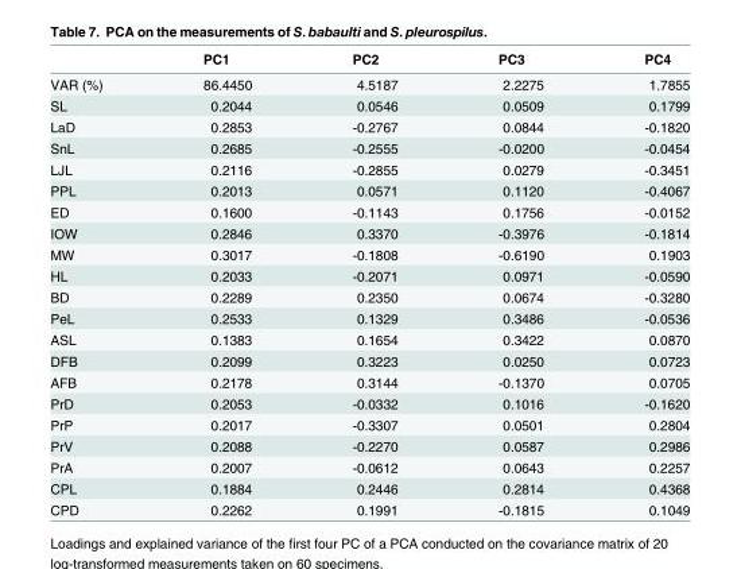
<table><thead><tr><td></td><td>PC1</td><td>PC2</td><td>PC3</td><td>PC4</td></tr></thead><tbody><tr><td>VAR (%)</td><td>86.4450</td><td>4.5187</td><td>2.2275</td><td>1.7855</td></tr><tr><td>SL</td><td>0.2044</td><td>0.0546</td><td>0.0509</td><td>0.1799</td></tr><tr><td>LaD</td><td>0.2853</td><td>-0.2767</td><td>0.0844</td><td>-0.1820</td></tr><tr><td>SnL</td><td>0.2685</td><td>-0.2555</td><td>-0.0200</td><td>-0.0454</td></tr><tr><td>LJL</td><td>0.2116</td><td>-0.2855</td><td>0.0279</td><td>-0.3451</td></tr><tr><td>PPL</td><td>0.2013</td><td>0.0571</td><td>0.1120</td><td>-0.4067</td></tr><tr><td>ED</td><td>0.1600</td><td>-0.1143</td><td>0.1756</td><td>-0.0152</td></tr><tr><td>IOW</td><td>0.2846</td><td>0.3370</td><td>-0.3976</td><td>-0.1814</td></tr><tr><td>MW</td><td>0.3017</td><td>-0.1808</td><td>-0.6190</td><td>0.1903</td></tr><tr><td>HL</td><td>0.2033</td><td>-0.2071</td><td>0.0971</td><td>-0.0590</td></tr><tr><td>BD</td><td>0.2289</td><td>0.2350</td><td>0.0674</td><td>-0.3280</td></tr><tr><td>PeL</td><td>0.2533</td><td>0.1329</td><td>0.3486</td><td>-0.0536</td></tr><tr><td>ASL</td><td>0.1383</td><td>0.1654</td><td>0.3422</td><td>0.0870</td></tr><tr><td>DFB</td><td>0.2099</td><td>0.3223</td><td>0.0250</td><td>0.0723</td></tr><tr><td>AFB</td><td>0.2178</td><td>0.3144</td><td>-0.1370</td><td>0.0705</td></tr><tr><td>PrD</td><td>0.2053</td><td>-0.0332</td><td>0.1016</td><td>-0.1620</td></tr><tr><td>PrP</td><td>0.2017</td><td>-0.3307</td><td>0.0501</td><td>0.2804</td></tr><tr><td>PrV</td><td>0.2088</td><td>-0.2270</td><td>0.0587</td><td>0.2986</td></tr><tr><td>PrA</td><td>0.2007</td><td>-0.0612</td><td>0.0643</td><td>0.2257</td></tr><tr><td>CPL</td><td>0.1884</td><td>0.2446</td><td>0.2814</td><td>0.4368</td></tr><tr><td>CPD</td><td>0.2262</td><td>0.1991</td><td>-0.1815</td><td>0.1049</td></tr></tbody></table>